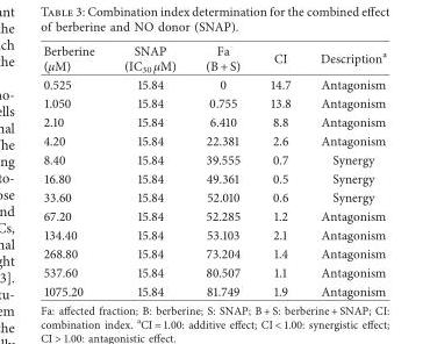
<table><thead><tr><td>Berberine (μM)</td><td>SNAP (IC<sub>30</sub> μM)</td><td>Fa (B + S)</td><td>CI</td><td>Description<sup>a</sup></td></tr></thead><tbody><tr><td>0.525</td><td>15.84</td><td>0</td><td>14.7</td><td>Antagonism</td></tr><tr><td>1.050</td><td>15.84</td><td>0.755</td><td>13.8</td><td>Antagonism</td></tr><tr><td>2.10</td><td>15.84</td><td>6.410</td><td>8.8</td><td>Antagonism</td></tr><tr><td>4.20</td><td>15.84</td><td>22.381</td><td>2.6</td><td>Antagonism</td></tr><tr><td>8.40</td><td>15.84</td><td>39.555</td><td>0.7</td><td>Synergy</td></tr><tr><td>16.80</td><td>15.84</td><td>49.361</td><td>0.5</td><td>Synergy</td></tr><tr><td>33.60</td><td>15.84</td><td>52.010</td><td>0.6</td><td>Synergy</td></tr><tr><td>67.20</td><td>15.84</td><td>52.285</td><td>1.2</td><td>Antagonism</td></tr><tr><td>134.40</td><td>15.84</td><td>53.103</td><td>2.1</td><td>Antagonism</td></tr><tr><td>268.80</td><td>15.84</td><td>73.204</td><td>1.4</td><td>Antagonism</td></tr><tr><td>537.60</td><td>15.84</td><td>80.507</td><td>1.1</td><td>Antagonism</td></tr><tr><td>1075.20</td><td>15.84</td><td>81.749</td><td>1.9</td><td>Antagonism</td></tr></tbody></table>